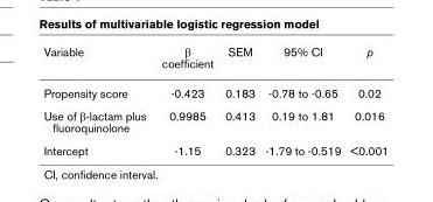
<table><thead><tr><td>Variable</td><td>β coefficient</td><td>SEM</td><td>95% CI</td><td>p</td></tr></thead><tbody><tr><td>Propensity score</td><td>-0.423</td><td>0.183</td><td>-0.78 to -0.65</td><td>0.02</td></tr><tr><td>Use of β-lactam plus fluoroquinolone</td><td>0.9985</td><td>0.413</td><td>0.19 to 1.81</td><td>0.016</td></tr><tr><td>Intercept</td><td>-1.15</td><td>0.323</td><td>-1.79 to -0.519</td><td>&lt;0.001</td></tr></tbody></table>